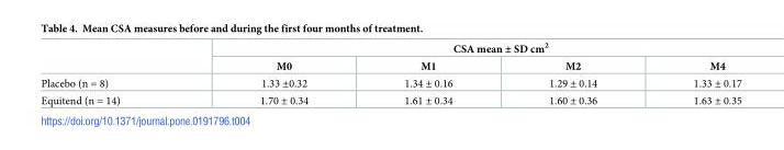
<table><thead><tr><td rowspan="2"></td><td colspan="4">CSA mean ± SD cm<sup>2</sup></td></tr><tr><td>M0</td><td>M1</td><td>M2</td><td>M4</td></tr></thead><tbody><tr><td>Placebo (n = 8)</td><td>1.33 ±0.32</td><td>1.34 ± 0.16</td><td>1.29 ± 0.14</td><td>1.33 ± 0.17</td></tr><tr><td>Equitend (n = 14)</td><td>1.70 ± 0.34</td><td>1.61 ± 0.34</td><td>1.60 ± 0.36</td><td>1.63 ± 0.35</td></tr></tbody></table>